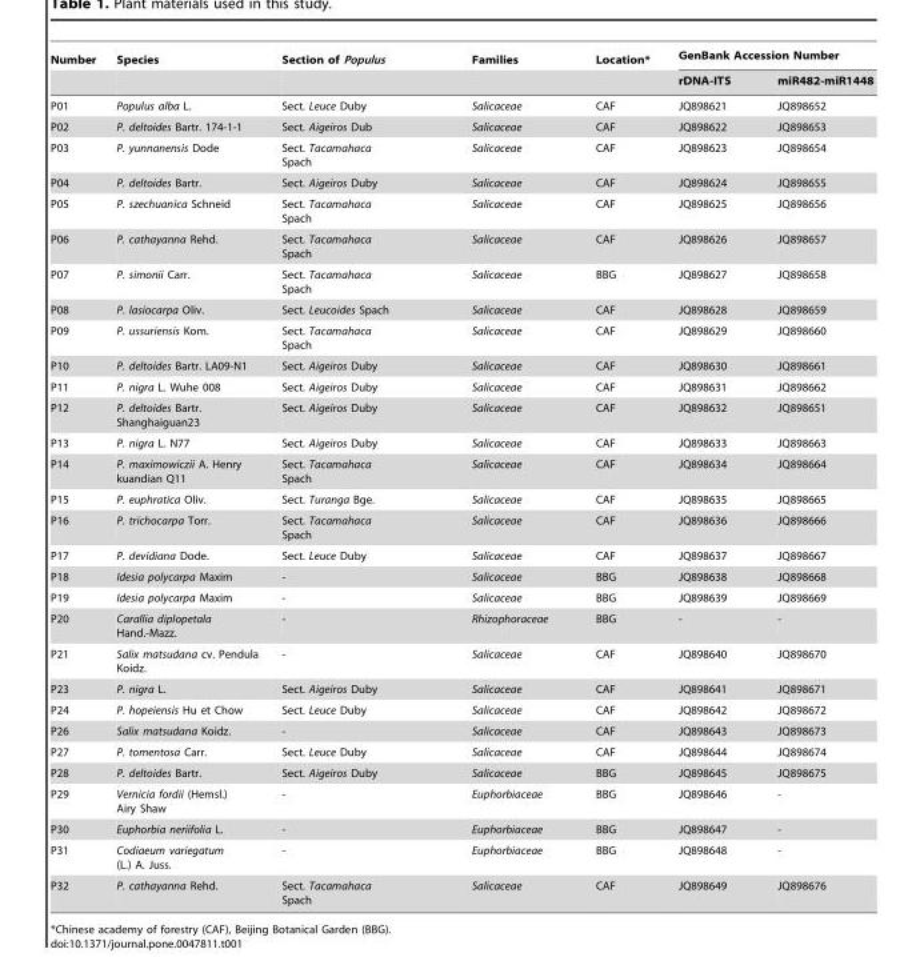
<table><thead><tr><td rowspan="2">Number</td><td rowspan="2">Species</td><td rowspan="2">Section of Populus</td><td rowspan="2">Families</td><td rowspan="2">Location*</td><td colspan="2">GenBank Accession Number</td></tr><tr><td>rDNA-ITS</td><td>miR482-miR1448</td></tr></thead><tbody><tr><td>P01</td><td>Populus alba L.</td><td>Sect. Leuce Duby</td><td>Salicaceae</td><td>CAF</td><td>JQ898621</td><td>JQ898652</td></tr><tr><td>P02</td><td>P. deltoides Bartr. 174-1-1</td><td>Sect. Aigeiros Dub</td><td>Salicaceae</td><td>CAF</td><td>JQ898622</td><td>JQ898653</td></tr><tr><td>P03</td><td>P. yunnanensis Dode</td><td>Sect. Tacamahaca Spach</td><td>Salicaceae</td><td>CAF</td><td>JQ898623</td><td>JQ898654</td></tr><tr><td>P04</td><td>P. deltoides Bartr.</td><td>Sect. Aigeiros Duby</td><td>Salicaceae</td><td>CAF</td><td>JQ898624</td><td>JQ898655</td></tr><tr><td>P05</td><td>P. szechuanica Schneid</td><td>Sect. Tacamahaca Spach</td><td>Salicaceae</td><td>CAF</td><td>JQ898625</td><td>JQ898656</td></tr><tr><td>P06</td><td>P. cathayanna Rehd.</td><td>Sect. Tacamahaca Spach</td><td>Salicaceae</td><td>CAF</td><td>JQ898626</td><td>JQ898657</td></tr><tr><td>P07</td><td>P. simonii Carr.</td><td>Sect. Tacamahaca Spach</td><td>Salicaceae</td><td>BBG</td><td>JQ898627</td><td>JQ898658</td></tr><tr><td>P08</td><td>P. lasiocarpa Oliv.</td><td>Sect. Leucoides Spach</td><td>Salicaceae</td><td>CAF</td><td>JQ898628</td><td>JQ898659</td></tr><tr><td>P09</td><td>P. ussuriensis Kom.</td><td>Sect. Tacamahaca Spach</td><td>Salicaceae</td><td>CAF</td><td>JQ898629</td><td>JQ898660</td></tr><tr><td>P10</td><td>P. deltoides Bartr. LA09-N1</td><td>Sect. Aigeiros Duby</td><td>Salicaceae</td><td>CAF</td><td>JQ898630</td><td>JQ898661</td></tr><tr><td>P11</td><td>P. nigra L. Wuhe 008</td><td>Sect. Aigeiros Duby</td><td>Salicaceae</td><td>CAF</td><td>JQ898631</td><td>JQ898662</td></tr><tr><td>P12</td><td>P. deltoides Bartr. Shanghaiguan23</td><td>Sect. Aigeiros Duby</td><td>Salicaceae</td><td>CAF</td><td>JQ898632</td><td>JQ898651</td></tr><tr><td>P13</td><td>P. nigra L. N77</td><td>Sect. Aigeiros Duby</td><td>Salicaceae</td><td>CAF</td><td>JQ898633</td><td>JQ898663</td></tr><tr><td>P14</td><td>P. maximowiczii A. Henry kuandian Q11</td><td>Sect. Tacamahaca Spach</td><td>Salicaceae</td><td>CAF</td><td>JQ898634</td><td>JQ898664</td></tr><tr><td>P15</td><td>P. euphratica Oliv.</td><td>Sect. Turanga Bge.</td><td>Salicaceae</td><td>CAF</td><td>JQ898635</td><td>JQ898665</td></tr><tr><td>P16</td><td>P. trichocarpa Torr.</td><td>Sect. Tacamahaca Spach</td><td>Salicaceae</td><td>CAF</td><td>JQ898636</td><td>JQ898666</td></tr><tr><td>P17</td><td>P. devidiana Dode.</td><td>Sect. Leuce Duby</td><td>Salicaceae</td><td>CAF</td><td>JQ898637</td><td>JQ898667</td></tr><tr><td>P18</td><td>Idesia polycarpa Maxim</td><td>-</td><td>Salicaceae</td><td>BBG</td><td>JQ898638</td><td>JQ898668</td></tr><tr><td>P19</td><td>Idesia polycarpa Maxim</td><td>-</td><td>Salicaceae</td><td>BBG</td><td>JQ898639</td><td>JQ898669</td></tr><tr><td>P20</td><td>Carallia diplopetala Hand.-Mazz.</td><td>-</td><td>Rhizophoraceae</td><td>BBG</td><td>-</td><td>-</td></tr><tr><td>P21</td><td>Salix matsudana cv. Pendula Koidz.</td><td>-</td><td>Salicaceae</td><td>CAF</td><td>JQ898640</td><td>JQ898670</td></tr><tr><td>P23</td><td>P. nigra L.</td><td>Sect. Aigeiros Duby</td><td>Salicaceae</td><td>CAF</td><td>JQ898641</td><td>JQ898671</td></tr><tr><td>P24</td><td>P. hopeiensis Hu et Chow</td><td>Sect. Leuce Duby</td><td>Salicaceae</td><td>CAF</td><td>JQ898642</td><td>JQ898672</td></tr><tr><td>P26</td><td>Salix matsudana Koidz.</td><td>-</td><td>Salicaceae</td><td>CAF</td><td>JQ898643</td><td>JQ898673</td></tr><tr><td>P27</td><td>P. tomentosa Carr.</td><td>Sect. Leuce Duby</td><td>Salicaceae</td><td>CAF</td><td>JQ898644</td><td>JQ898674</td></tr><tr><td>P28</td><td>P. deltoides Bartr.</td><td>Sect. Aigeiros Duby</td><td>Salicaceae</td><td>BBG</td><td>JQ898645</td><td>JQ898675</td></tr><tr><td>P29</td><td>Vernicia fordii (Hemsl.) Airy Shaw</td><td>-</td><td>Euphorbiaceae</td><td>BBG</td><td>JQ898646</td><td>-</td></tr><tr><td>P30</td><td>Euphorbia neriifolia L.</td><td>-</td><td>Euphorbiaceae</td><td>BBG</td><td>JQ898647</td><td>-</td></tr><tr><td>P31</td><td>Codiaeum variegatum (L.) A. Juss.</td><td>-</td><td>Euphorbiaceae</td><td>BBG</td><td>JQ898648</td><td>-</td></tr><tr><td>P32</td><td>P. cathayanna Rehd.</td><td>Sect. Tacamahaca Spach</td><td>Salicaceae</td><td>CAF</td><td>JQ898649</td><td>JQ898676</td></tr></tbody></table>